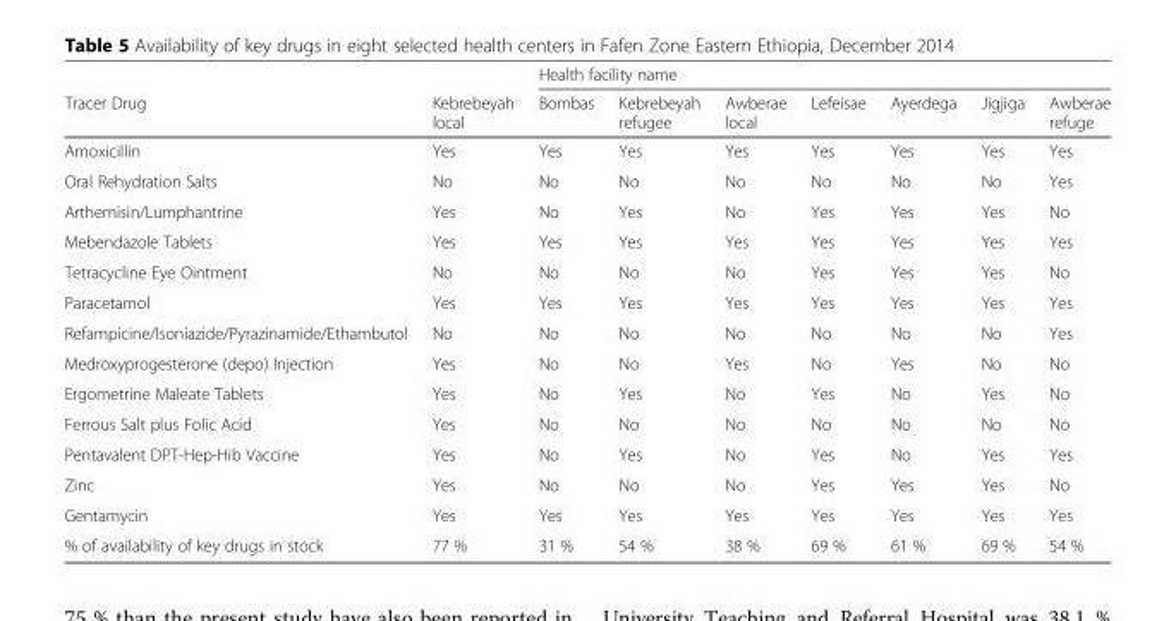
<table><thead><tr><td rowspan="2">Tracer Drug</td><td rowspan="2">Kebrebeyah local</td><td colspan="7">Health facility name</td></tr><tr><td>Bombas</td><td>Kebrebeyah refugee</td><td>Awberae local</td><td>Lefeisae</td><td>Ayerdega</td><td>Jigjiga</td><td>Awberae refuge</td></tr></thead><tbody><tr><td>Amoxicillin</td><td>Yes</td><td>Yes</td><td>Yes</td><td>Yes</td><td>Yes</td><td>Yes</td><td>Yes</td><td>Yes</td></tr><tr><td>Oral Rehydration Salts</td><td>No</td><td>No</td><td>No</td><td>No</td><td>No</td><td>No</td><td>No</td><td>Yes</td></tr><tr><td>Arthemisin/Lumphantrine</td><td>Yes</td><td>No</td><td>Yes</td><td>No</td><td>Yes</td><td>Yes</td><td>Yes</td><td>No</td></tr><tr><td>Mebendazole Tablets</td><td>Yes</td><td>Yes</td><td>Yes</td><td>Yes</td><td>Yes</td><td>Yes</td><td>Yes</td><td>Yes</td></tr><tr><td>Tetracycline Eye Ointment</td><td>No</td><td>No</td><td>No</td><td>No</td><td>Yes</td><td>Yes</td><td>Yes</td><td>No</td></tr><tr><td>Paracetamol</td><td>Yes</td><td>Yes</td><td>Yes</td><td>Yes</td><td>Yes</td><td>Yes</td><td>Yes</td><td>Yes</td></tr><tr><td>Refampicine/Isoniazide/Pyrazinamide/Ethambutol</td><td>No</td><td>No</td><td>No</td><td>No</td><td>No</td><td>No</td><td>No</td><td>Yes</td></tr><tr><td>Medroxyprogesterone (depo) Injection</td><td>Yes</td><td>No</td><td>No</td><td>Yes</td><td>No</td><td>Yes</td><td>No</td><td>No</td></tr><tr><td>Ergometrine Maleate Tablets</td><td>Yes</td><td>No</td><td>Yes</td><td>No</td><td>Yes</td><td>No</td><td>Yes</td><td>No</td></tr><tr><td>Ferrous Salt plus Folic Acid</td><td>Yes</td><td>No</td><td>No</td><td>No</td><td>No</td><td>No</td><td>No</td><td>No</td></tr><tr><td>Pentavalent DPT-Hep-Hib Vaccine</td><td>Yes</td><td>No</td><td>Yes</td><td>No</td><td>Yes</td><td>No</td><td>Yes</td><td>Yes</td></tr><tr><td>Zinc</td><td>Yes</td><td>No</td><td>No</td><td>No</td><td>Yes</td><td>Yes</td><td>Yes</td><td>No</td></tr><tr><td>Gentamycin</td><td>Yes</td><td>Yes</td><td>Yes</td><td>Yes</td><td>Yes</td><td>Yes</td><td>Yes</td><td>Yes</td></tr><tr><td>% of availability of key drugs in stock</td><td>77 %</td><td>31 %</td><td>54 %</td><td>38 %</td><td>69 %</td><td>61 %</td><td>69 %</td><td>54 %</td></tr></tbody></table>